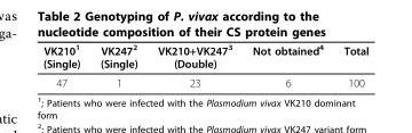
<table><thead><tr><td>VK210<sup>1</sup> (Single)</td><td>VK247<sup>2</sup> (Single)</td><td>VK210+VK247<sup>3</sup> (Double)</td><td>Not obtained<sup>4</sup></td><td>Total</td></tr></thead><tbody><tr><td>47</td><td>1</td><td>23</td><td>6</td><td>100</td></tr></tbody></table>